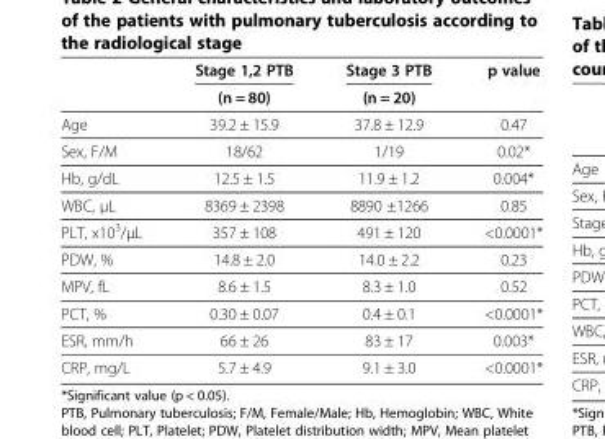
<table><thead><tr><td rowspan="2"></td><td rowspan="2">Stage 1,2 PTB (n = 80)</td><td rowspan="2">Stage 3 PTB (n = 20)</td><td rowspan="2">p value</td></tr><tr></tr></thead><tbody><tr><td>Age</td><td>39.2 ± 15.9</td><td>37.8 ± 12.9</td><td>0.47</td></tr><tr><td>Sex, F/M</td><td>18/62</td><td>1/19</td><td>0.02*</td></tr><tr><td>Hb, g/dL</td><td>12.5 ± 1.5</td><td>11.9 ± 1.2</td><td>0.004*</td></tr><tr><td>WBC, μL</td><td>8369 ± 2398</td><td>8890 ±1266</td><td>0.85</td></tr><tr><td>PLT, x10<sup>3</sup>/μL</td><td>357 ± 108</td><td>491 ± 120</td><td>&lt;0.0001*</td></tr><tr><td>PDW, %</td><td>14.8 ± 2.0</td><td>14.0 ± 2.2</td><td>0.23</td></tr><tr><td>MPV, fL</td><td>8.6 ± 1.5</td><td>8.3 ± 1.0</td><td>0.52</td></tr><tr><td>PCT, %</td><td>0.30 ± 0.07</td><td>0.4 ± 0.1</td><td>&lt;0.0001*</td></tr><tr><td>ESR, mm/h</td><td>66 ± 26</td><td>83 ± 17</td><td>0.003*</td></tr><tr><td>CRP, mg/L</td><td>5.7 ± 4.9</td><td>9.1 ± 3.0</td><td>&lt;0.0001*</td></tr></tbody></table>